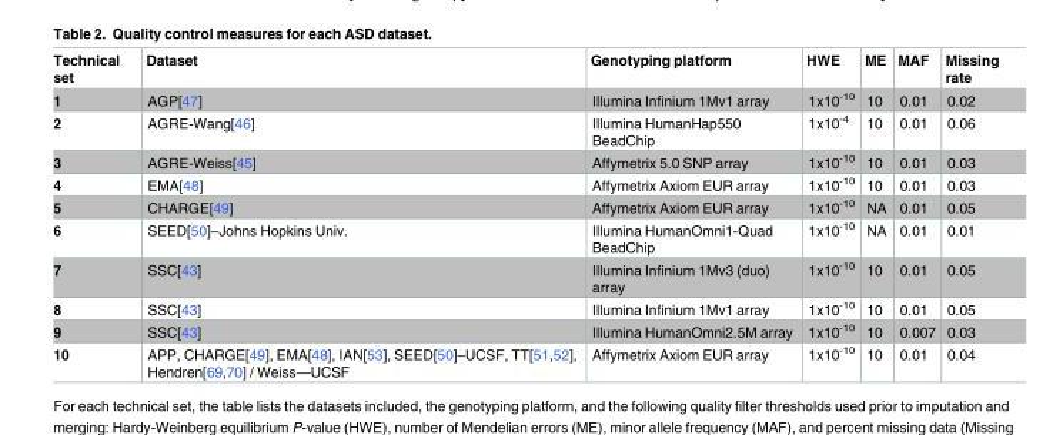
<table><thead><tr><td>Technical set</td><td>Dataset</td><td>Genotyping platform</td><td>HWE</td><td>ME</td><td>MAF</td><td>Missing rate</td></tr></thead><tbody><tr><td>1</td><td>AGP[47]</td><td>Illumina Infinium 1Mv1 array</td><td>1x10<sup>-10</sup></td><td>10</td><td>0.01</td><td>0.02</td></tr><tr><td>2</td><td>AGRE-Wang[46]</td><td>Illumina HumanHap550 BeadChip</td><td>1x10<sup>-4</sup></td><td>10</td><td>0.01</td><td>0.06</td></tr><tr><td>3</td><td>AGRE-Weiss[45]</td><td>Affymetrix 5.0 SNP array</td><td>1x10<sup>-10</sup></td><td>10</td><td>0.01</td><td>0.03</td></tr><tr><td>4</td><td>EMA[48]</td><td>Affymetrix Axiom EUR array</td><td>1x10<sup>-10</sup></td><td>10</td><td>0.01</td><td>0.03</td></tr><tr><td>5</td><td>CHARGE[49]</td><td>Affymetrix Axiom EUR array</td><td>1x10<sup>-10</sup></td><td>NA</td><td>0.01</td><td>0.05</td></tr><tr><td>6</td><td>SEED[50]–Johns Hopkins Univ.</td><td>Illumina HumanOmni1-Quad BeadChip</td><td>1x10<sup>-10</sup></td><td>NA</td><td>0.01</td><td>0.01</td></tr><tr><td>7</td><td>SSC[43]</td><td>Illumina Infinium 1Mv3 (duo) array</td><td>1x10<sup>-10</sup></td><td>10</td><td>0.01</td><td>0.05</td></tr><tr><td>8</td><td>SSC[43]</td><td>Illumina Infinium 1Mv1 array</td><td>1x10<sup>-10</sup></td><td>10</td><td>0.01</td><td>0.05</td></tr><tr><td>9</td><td>SSC[43]</td><td>Illumina HumanOmni2.5M array</td><td>1x10<sup>-10</sup></td><td>10</td><td>0.007</td><td>0.03</td></tr><tr><td>10</td><td>APP, CHARGE[49], EMA[48], IAN[53], SEED[50]–UCSF, TT[51,52], Hendren[69,70] / Weiss—UCSF</td><td>Affymetrix Axiom EUR array</td><td>1x10<sup>-10</sup></td><td>10</td><td>0.01</td><td>0.04</td></tr></tbody></table>